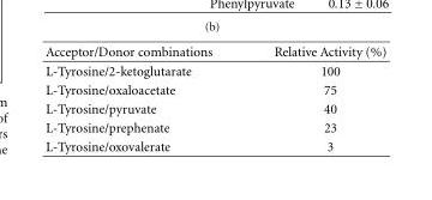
<table><thead><tr><td>Acceptor/Donor combinations</td><td>Relative Activity (%)</td></tr></thead><tbody><tr><td>L-Tyrosine/2-ketoglutarate</td><td>100</td></tr><tr><td>L-Tyrosine/oxaloacetate</td><td>75</td></tr><tr><td>L-Tyrosine/pyruvate</td><td>40</td></tr><tr><td>L-Tyrosine/prephenate</td><td>23</td></tr><tr><td>L-Tyrosine/oxovalerate</td><td>3</td></tr></tbody></table>